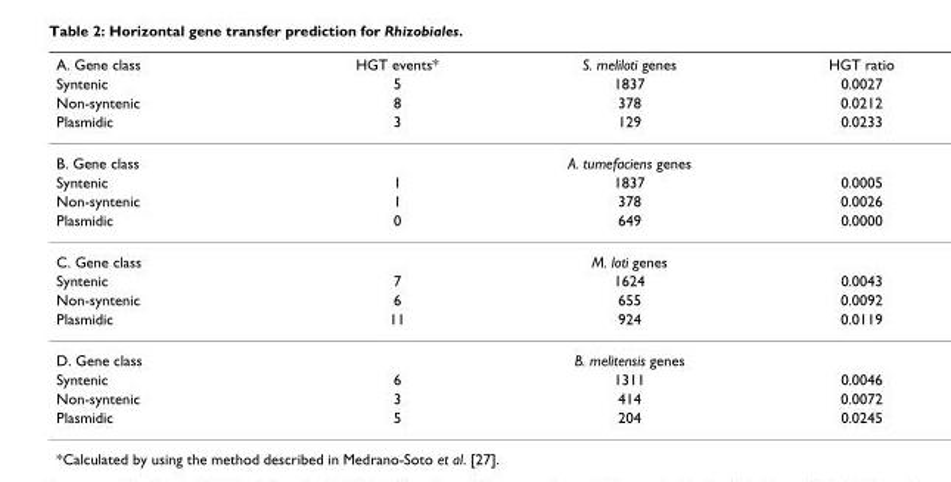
<table><thead><tr><td rowspan="4">A. Gene class Syntenic Non-syntenic Plasmidic</td><td rowspan="4">HGT events* 5 8 3</td><td rowspan="4">S. meliloti genes 1837 378 129</td><td rowspan="4">HGT ratio 0.0027 0.0212 0.0233</td></tr><tr></tr><tr></tr><tr></tr></thead><tbody><tr><td>B. Gene class</td><td></td><td>A. tumefaciens genes</td><td></td></tr><tr><td>Syntenic</td><td>1</td><td>1837</td><td>0.0005</td></tr><tr><td>Non-syntenic</td><td>1</td><td>378</td><td>0.0026</td></tr><tr><td>Plasmidic</td><td>0</td><td>649</td><td>0.0000</td></tr><tr><td>C. Gene class</td><td></td><td>M. loti genes</td><td></td></tr><tr><td>Syntenic</td><td>7</td><td>1624</td><td>0.0043</td></tr><tr><td>Non-syntenic</td><td>6</td><td>655</td><td>0.0092</td></tr><tr><td>Plasmidic</td><td>11</td><td>924</td><td>0.0119</td></tr><tr><td>D. Gene class</td><td></td><td>B. melitensis genes</td><td></td></tr><tr><td>Syntenic</td><td>6</td><td>1311</td><td>0.0046</td></tr><tr><td>Non-syntenic</td><td>3</td><td>414</td><td>0.0072</td></tr><tr><td>Plasmidic</td><td>5</td><td>204</td><td>0.0245</td></tr></tbody></table>